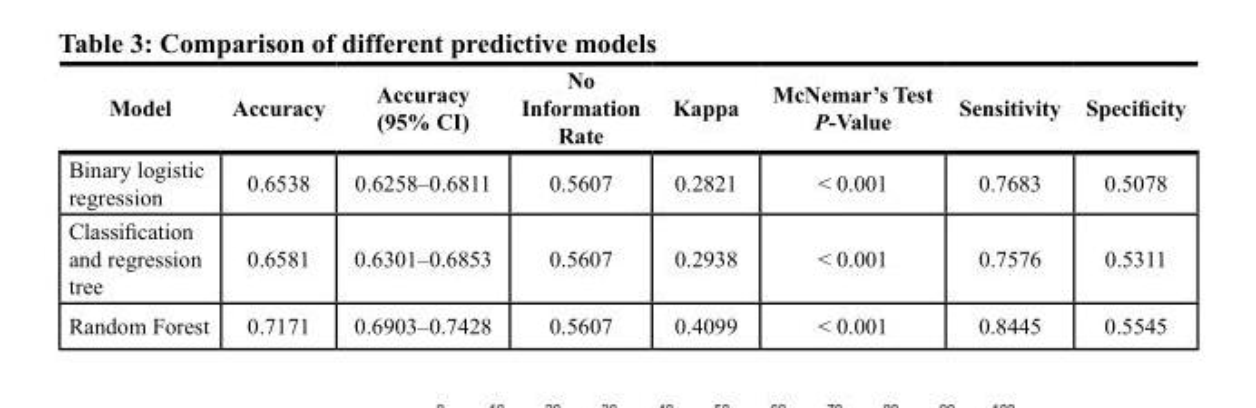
<table><thead><tr><td>Model</td><td>Accuracy</td><td>Accuracy (95% CI)</td><td>no Information rate</td><td>Kappa</td><td>Mcnemar’s test P-Value</td><td>sensitivity</td><td>Specificity</td></tr></thead><tbody><tr><td>Binary logistic regression</td><td>0.6538</td><td>0.6258–0.6811</td><td>0.5607</td><td>0.2821</td><td>&lt; 0.001</td><td>0.7683</td><td>0.5078</td></tr><tr><td>Classification and regression tree</td><td>0.6581</td><td>0.6301–0.6853</td><td>0.5607</td><td>0.2938</td><td>&lt; 0.001</td><td>0.7576</td><td>0.5311</td></tr><tr><td>Random Forest</td><td>0.7171</td><td>0.6903–0.7428</td><td>0.5607</td><td>0.4099</td><td>&lt; 0.001</td><td>0.8445</td><td>0.5545</td></tr></tbody></table>